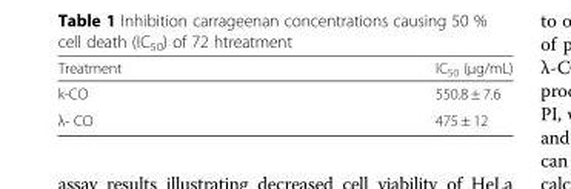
<table><thead><tr><td>Treatment</td><td>IC<sub>50</sub> (μg/mL)</td></tr></thead><tbody><tr><td>k-CO</td><td>550.8 ± 7.6</td></tr><tr><td>λ- CO</td><td>475 ± 12</td></tr></tbody></table>